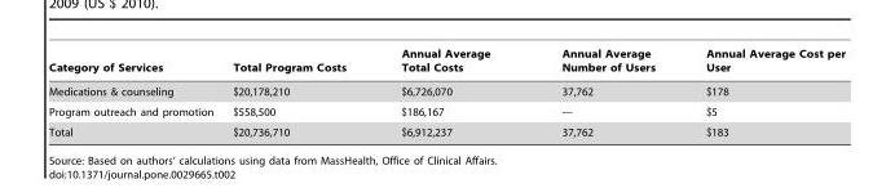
<table><thead><tr><td>Category of Services</td><td>Total Program Costs</td><td>Annual Average Total Costs</td><td>Annual Average Number of Users</td><td>Annual Average Cost per User</td></tr></thead><tbody><tr><td>Medications &amp; counseling</td><td>$20,178,210</td><td>$6,726,070</td><td>37,762</td><td>$178</td></tr><tr><td>Program outreach and promotion</td><td>$558,500</td><td>$186,167</td><td>---</td><td>$5</td></tr><tr><td>Total</td><td>$20,736,710</td><td>$6,912,237</td><td>37,762</td><td>$183</td></tr></tbody></table>